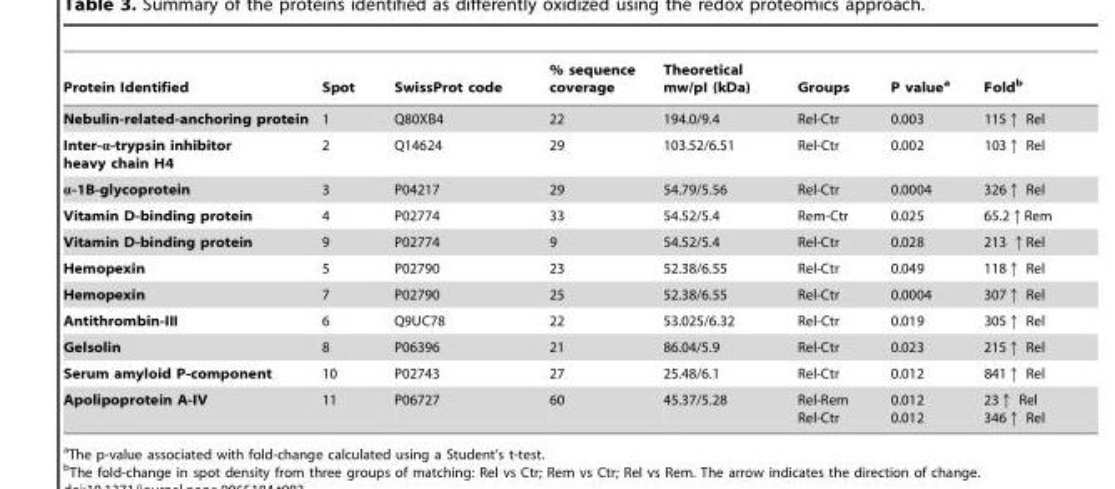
<table><thead><tr><td>Protein Identified</td><td>Spot</td><td>SwissProt code</td><td>% sequence coverage</td><td>Theoretical mw/pI (kDa)</td><td>Groups</td><td>P value<sup>a</sup></td><td>Fold<sup>b</sup></td></tr></thead><tbody><tr><td>Nebulin-related-anchoring protein</td><td>1</td><td>Q80XB4</td><td>22</td><td>194.0/9.4</td><td>Rel-Ctr</td><td>0.003</td><td>115↑ Rel</td></tr><tr><td>Inter-α-trypsin inhibitor heavy chain H4</td><td>2</td><td>Q14624</td><td>29</td><td>103.52/6.51</td><td>Rel-Ctr</td><td>0.002</td><td>103↑ Rel</td></tr><tr><td>α-1B-glycoprotein</td><td>3</td><td>P04217</td><td>29</td><td>54.79/5.56</td><td>Rel-Ctr</td><td>0.0004</td><td>326↑ Rel</td></tr><tr><td>Vitamin D-binding protein</td><td>4</td><td>P02774</td><td>33</td><td>54.52/5.4</td><td>Rem-Ctr</td><td>0.025</td><td>65.2↑Rem</td></tr><tr><td>Vitamin D-binding protein</td><td>9</td><td>P02774</td><td>9</td><td>54.52/5.4</td><td>Rel-Ctr</td><td>0.028</td><td>213 ↑Rel</td></tr><tr><td>Hemopexin</td><td>5</td><td>P02790</td><td>23</td><td>52.38/6.55</td><td>Rel-Ctr</td><td>0.049</td><td>118↑ Rel</td></tr><tr><td>Hemopexin</td><td>7</td><td>P02790</td><td>25</td><td>52.38/6.55</td><td>Rel-Ctr</td><td>0.0004</td><td>307↑ Rel</td></tr><tr><td>Antithrombin-III</td><td>6</td><td>Q9UC78</td><td>22</td><td>53.025/6.32</td><td>Rel-Ctr</td><td>0.019</td><td>305↑ Rel</td></tr><tr><td>Gelsolin</td><td>8</td><td>P06396</td><td>21</td><td>86.04/5.9</td><td>Rel-Ctr</td><td>0.023</td><td>215↑ Rel</td></tr><tr><td>Serum amyloid P-component</td><td>10</td><td>P02743</td><td>27</td><td>25.48/6.1</td><td>Rel-Ctr</td><td>0.012</td><td>841↑ Rel</td></tr><tr><td>Apolipoprotein A-IV</td><td>11</td><td>P06727</td><td>60</td><td>45.37/5.28</td><td>Rel-Rem Rel-Ctr</td><td>0.012 0.012</td><td>23↑ Rel 346↑ Rel</td></tr></tbody></table>